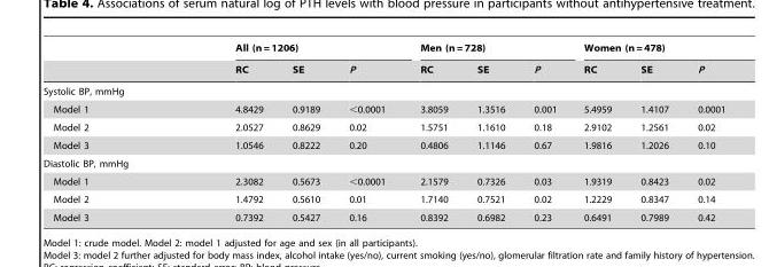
<table><thead><tr><td rowspan="2"></td><td colspan="3">All (n = 1206)</td><td colspan="3">Men (n = 728)</td><td colspan="3">Women (n = 478)</td></tr><tr><td>RC</td><td>SE</td><td>P</td><td>RC</td><td>SE</td><td>P</td><td>RC</td><td>SE</td><td>P</td></tr></thead><tbody><tr><td colspan="10">Systolic BP, mmHg</td></tr><tr><td>Model 1</td><td>4.8429</td><td>0.9189</td><td>&lt;0.0001</td><td>3.8059</td><td>1.3516</td><td>0.001</td><td>5.4959</td><td>1.4107</td><td>0.0001</td></tr><tr><td>Model 2</td><td>2.0527</td><td>0.8629</td><td>0.02</td><td>1.5751</td><td>1.1610</td><td>0.18</td><td>2.9102</td><td>1.2561</td><td>0.02</td></tr><tr><td>Model 3</td><td>1.0546</td><td>0.8222</td><td>0.20</td><td>0.4806</td><td>1.1146</td><td>0.67</td><td>1.9816</td><td>1.2026</td><td>0.10</td></tr><tr><td colspan="10">Diastolic BP, mmHg</td></tr><tr><td>Model 1</td><td>2.3082</td><td>0.5673</td><td>&lt;0.0001</td><td>2.1579</td><td>0.7326</td><td>0.03</td><td>1.9319</td><td>0.8423</td><td>0.02</td></tr><tr><td>Model 2</td><td>1.4792</td><td>0.5610</td><td>0.01</td><td>1.7140</td><td>0.7521</td><td>0.02</td><td>1.2229</td><td>0.8347</td><td>0.14</td></tr><tr><td>Model 3</td><td>0.7392</td><td>0.5427</td><td>0.16</td><td>0.8392</td><td>0.6982</td><td>0.23</td><td>0.6491</td><td>0.7989</td><td>0.42</td></tr></tbody></table>